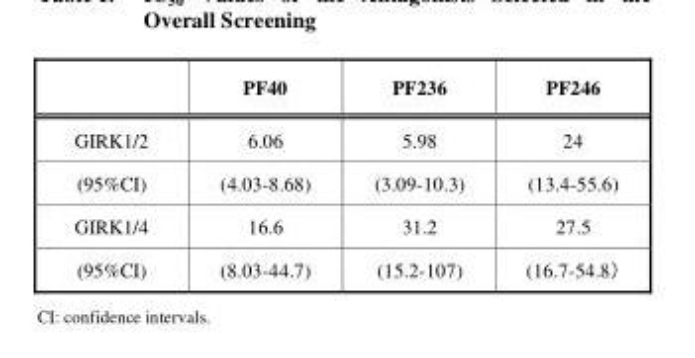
<table><thead><tr><td></td><td>PF40</td><td>PF236</td><td>PF246</td></tr></thead><tbody><tr><td>GIRK1/2</td><td>6.06</td><td>5.98</td><td>24</td></tr><tr><td>(95%CI)</td><td>(4.03-8.68)</td><td>(3.09-10.3)</td><td>(13.4-55.6)</td></tr><tr><td>GIRK1/4</td><td>16.6</td><td>31.2</td><td>27.5</td></tr><tr><td>(95%CI)</td><td>(8.03-44.7)</td><td>(15.2-107)</td><td>(16.7-54.8)</td></tr></tbody></table>